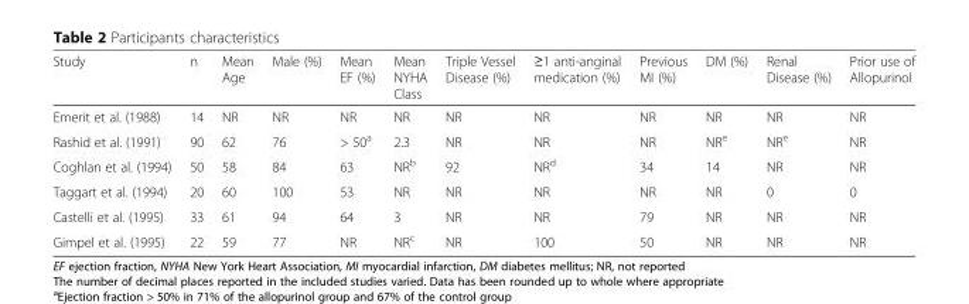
<table><thead><tr><td>Study</td><td>n</td><td>Mean Age</td><td>Male (%)</td><td>Mean EF (%)</td><td>Mean NYHA Class</td><td>Triple Vessel Disease (%)</td><td>≥1 anti-anginal medication (%)</td><td>Previous MI (%)</td><td>DM (%)</td><td>Renal Disease (%)</td><td>Prior use of Allopurinol</td></tr></thead><tbody><tr><td>Emerit et al. (1988)</td><td>14</td><td>NR</td><td>NR</td><td>NR</td><td>NR</td><td>NR</td><td>NR</td><td>NR</td><td>NR</td><td>NR</td><td>NR</td></tr><tr><td>Rashid et al. (1991)</td><td>90</td><td>62</td><td>76</td><td>&gt; 50<sup>a</sup></td><td>2.3</td><td>NR</td><td>NR</td><td>NR</td><td>NR<sup>e</sup></td><td>NR<sup>e</sup></td><td>NR</td></tr><tr><td>Coghlan et al. (1994)</td><td>50</td><td>58</td><td>84</td><td>63</td><td>NR<sup>b</sup></td><td>92</td><td>NR<sup>d</sup></td><td>34</td><td>14</td><td>NR</td><td>NR</td></tr><tr><td>Taggart et al. (1994)</td><td>20</td><td>60</td><td>100</td><td>53</td><td>NR</td><td>NR</td><td>NR</td><td>NR</td><td>NR</td><td>0</td><td>0</td></tr><tr><td>Castelli et al. (1995)</td><td>33</td><td>61</td><td>94</td><td>64</td><td>3</td><td>NR</td><td>NR</td><td>79</td><td>NR</td><td>NR</td><td>NR</td></tr><tr><td>Gimpel et al. (1995)</td><td>22</td><td>59</td><td>77</td><td>NR</td><td>NR<sup>c</sup></td><td>NR</td><td>100</td><td>50</td><td>NR</td><td>NR</td><td>NR</td></tr></tbody></table>